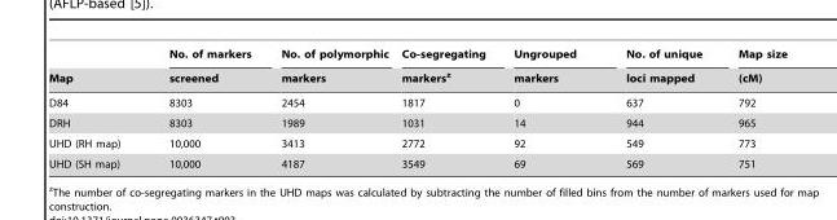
<table><thead><tr><td rowspan="2">Map</td><td rowspan="2">No. of markers screened</td><td rowspan="2">No. of polymorphic markers</td><td rowspan="2">Co-segregating markers<sup>z</sup></td><td rowspan="2">Ungrouped markers</td><td rowspan="2">No. of unique loci mapped</td><td rowspan="2">Map size (cM)</td></tr><tr></tr></thead><tbody><tr><td>D84</td><td>8303</td><td>2454</td><td>1817</td><td>0</td><td>637</td><td>792</td></tr><tr><td>DRH</td><td>8303</td><td>1989</td><td>1031</td><td>14</td><td>944</td><td>965</td></tr><tr><td>UHD (RH map)</td><td>10,000</td><td>3413</td><td>2772</td><td>92</td><td>549</td><td>773</td></tr><tr><td>UHD (SH map)</td><td>10,000</td><td>4187</td><td>3549</td><td>69</td><td>569</td><td>751</td></tr></tbody></table>